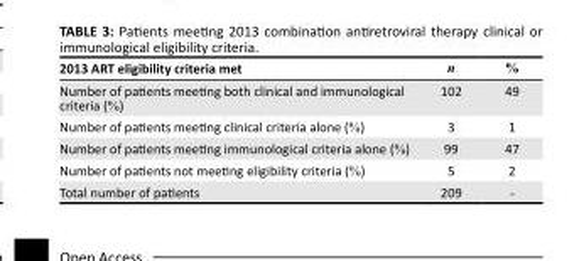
<table><thead><tr><td>2013 ART eligibility criteria met</td><td>n</td><td>%</td></tr></thead><tbody><tr><td>Number of patients meeting both clinical and immunological criteria (%)</td><td>102</td><td>49</td></tr><tr><td>Number of patients meeting clinical criteria alone (%)</td><td>3</td><td>1</td></tr><tr><td>Number of patients meeting immunological criteria alone (%)</td><td>99</td><td>47</td></tr><tr><td>Number of patients not meeting eligibility criteria (%)</td><td>5</td><td>2</td></tr><tr><td>Total number of patients</td><td>209</td><td>-</td></tr></tbody></table>